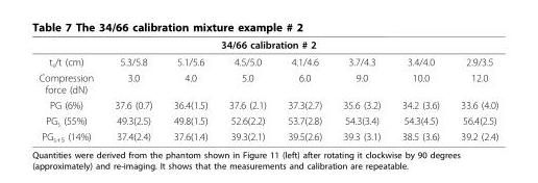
<table><thead><tr><td colspan="8">34/66 calibration # 2</td></tr><tr><td>t<sub>s</sub>/t (cm)</td><td>5.3/5.8</td><td>5.1/5.6</td><td>4.5/5.0</td><td>4.1/4.6</td><td>3.7/4.3</td><td>3.4/4.0</td><td>2.9/3.5</td></tr></thead><tbody><tr><td>Compression force (dN)</td><td>3.0</td><td>4.0</td><td>5.0</td><td>6.0</td><td>9.0</td><td>10.0</td><td>12.0</td></tr><tr><td>PG (6%)</td><td>37.6 (0.7)</td><td>36.4(1.5)</td><td>37.6 (2.1)</td><td>37.3(2.7)</td><td>35.6 (3.2)</td><td>34.2 (3.6)</td><td>33.6 (4.0)</td></tr><tr><td>PG<sub>s</sub> (55%)</td><td>49.3(2.5)</td><td>49.8(1.5)</td><td>52.6(2.2)</td><td>53.7(2.8)</td><td>54.3(3.4)</td><td>54.3(4.5)</td><td>56.4(2.5)</td></tr><tr><td>PG<sub>s+5</sub> (14%)</td><td>37.4(2.4)</td><td>37.6(1.4)</td><td>39.3(2.1)</td><td>39.5(2.6)</td><td>39.3 (3.1)</td><td>38.5 (3.6)</td><td>39.2 (2.4)</td></tr></tbody></table>